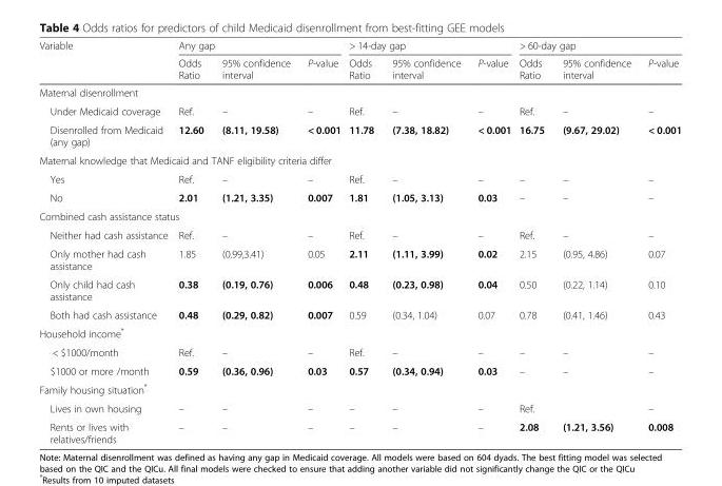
<table><thead><tr><td rowspan="2">Variable</td><td colspan="3">Any gap</td><td colspan="3">&gt; 14-day gap</td><td colspan="3">&gt; 60-day gap</td></tr><tr><td>Odds Ratio</td><td>95% confidence interval</td><td>P-value</td><td>Odds Ratio</td><td>95% confidence interval</td><td>P-value</td><td>Odds Ratio</td><td>95% confidence interval</td><td>P-value</td></tr></thead><tbody><tr><td colspan="10">Maternal disenrollment</td></tr><tr><td>Under Medicaid coverage</td><td>Ref.</td><td>–</td><td>–</td><td>Ref.</td><td>–</td><td>–</td><td>Ref.</td><td>–</td><td>–</td></tr><tr><td>Disenrolled from Medicaid (any gap)</td><td>12.60</td><td>(8.11, 19.58)</td><td>&lt; 0.001</td><td>11.78</td><td>(7.38, 18.82)</td><td>&lt; 0.001</td><td>16.75</td><td>(9.67, 29.02)</td><td>&lt; 0.001</td></tr><tr><td colspan="10">Maternal knowledge that Medicaid and TANF eligibility criteria differ</td></tr><tr><td>Yes</td><td>Ref.</td><td>–</td><td>–</td><td>Ref.</td><td>–</td><td>–</td><td>–</td><td>–</td><td>–</td></tr><tr><td>No</td><td>2.01</td><td>(1.21, 3.35)</td><td>0.007</td><td>1.81</td><td>(1.05, 3.13)</td><td>0.03</td><td>–</td><td>–</td><td>–</td></tr><tr><td colspan="10">Combined cash assistance status</td></tr><tr><td>Neither had cash assistance</td><td>Ref.</td><td>–</td><td>–</td><td>Ref.</td><td>–</td><td>–</td><td>Ref.</td><td>–</td><td>–</td></tr><tr><td>Only mother had cash assistance</td><td>1.85</td><td>(0.99,3.41)</td><td>0.05</td><td>2.11</td><td>(1.11, 3.99)</td><td>0.02</td><td>2.15</td><td>(0.95, 4.86)</td><td>0.07</td></tr><tr><td>Only child had cash assistance</td><td>0.38</td><td>(0.19, 0.76)</td><td>0.006</td><td>0.48</td><td>(0.23, 0.98)</td><td>0.04</td><td>0.50</td><td>(0.22, 1.14)</td><td>0.10</td></tr><tr><td>Both had cash assistance</td><td>0.48</td><td>(0.29, 0.82)</td><td>0.007</td><td>0.59</td><td>(0.34, 1.04)</td><td>0.07</td><td>0.78</td><td>(0.41, 1.46)</td><td>0.43</td></tr><tr><td colspan="10">Household income*</td></tr><tr><td>&lt; $1000/month</td><td>Ref.</td><td>–</td><td>–</td><td>Ref.</td><td>–</td><td>–</td><td>–</td><td>–</td><td>–</td></tr><tr><td>$1000 or more /month</td><td>0.59</td><td>(0.36, 0.96)</td><td>0.03</td><td>0.57</td><td>(0.34, 0.94)</td><td>0.03</td><td>–</td><td>–</td><td>–</td></tr><tr><td colspan="10">Family housing situation*</td></tr><tr><td>Lives in own housing</td><td>–</td><td>–</td><td>–</td><td>–</td><td>–</td><td>–</td><td>Ref.</td><td></td><td>–</td></tr><tr><td>Rents or lives with relatives/friends</td><td>–</td><td>–</td><td>–</td><td>–</td><td>–</td><td>–</td><td>2.08</td><td>(1.21, 3.56)</td><td>0.008</td></tr></tbody></table>